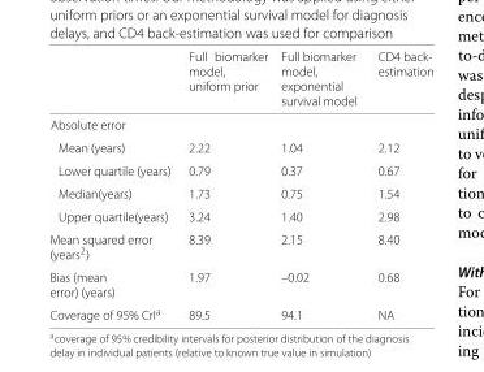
<table><thead><tr><td></td><td>Full biomarker model, uniform prior</td><td>Full biomarker model, exponential survival model</td><td>CD4 back- estimation</td></tr></thead><tbody><tr><td colspan="4">Absolute error</td></tr><tr><td>Mean (years)</td><td>2.22</td><td>1.04</td><td>2.12</td></tr><tr><td>Lower quartile (years)</td><td>0.79</td><td>0.37</td><td>0.67</td></tr><tr><td>Median(years)</td><td>1.73</td><td>0.75</td><td>1.54</td></tr><tr><td>Upper quartile(years)</td><td>3.24</td><td>1.40</td><td>2.98</td></tr><tr><td>Mean squared error (years<sup>2</sup>)</td><td>8.39</td><td>2.15</td><td>8.40</td></tr><tr><td>Bias (mean error) (years)</td><td>1.97</td><td>–0.02</td><td>0.68</td></tr><tr><td>Coverage of 95% CrI<sup>a</sup></td><td>89.5</td><td>94.1</td><td>NA</td></tr></tbody></table>